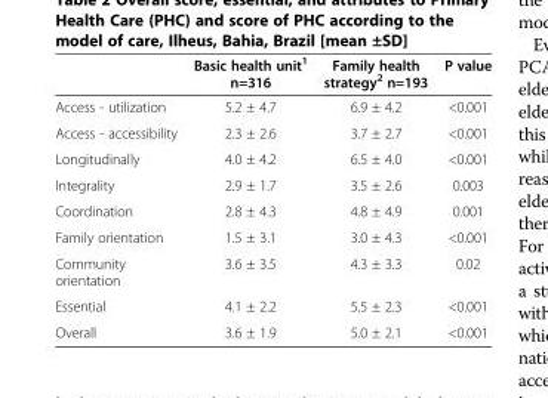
<table><thead><tr><td></td><td>Basic health unit<sup>1</sup> n=316</td><td>Family health strategy<sup>2</sup> n=193</td><td>P value</td></tr></thead><tbody><tr><td>Access - utilization</td><td>5.2 ± 4.7</td><td>6.9 ± 4.2</td><td>&lt;0.001</td></tr><tr><td>Access - accessibility</td><td>2.3 ± 2.6</td><td>3.7 ± 2.7</td><td>&lt;0.001</td></tr><tr><td>Longitudinally</td><td>4.0 ± 4.2</td><td>6.5 ± 4.0</td><td>&lt;0.001</td></tr><tr><td>Integrality</td><td>2.9 ± 1.7</td><td>3.5 ± 2.6</td><td>0.003</td></tr><tr><td>Coordination</td><td>2.8 ± 4.3</td><td>4.8 ± 4.9</td><td>0.001</td></tr><tr><td>Family orientation</td><td>1.5 ± 3.1</td><td>3.0 ± 4.3</td><td>&lt;0.001</td></tr><tr><td>Community orientation</td><td>3.6 ± 3.5</td><td>4.3 ± 3.3</td><td>0.02</td></tr><tr><td>Essential</td><td>4.1 ± 2.2</td><td>5.5 ± 2.3</td><td>&lt;0.001</td></tr><tr><td>Overall</td><td>3.6 ± 1.9</td><td>5.0 ± 2.1</td><td>&lt;0.001</td></tr></tbody></table>